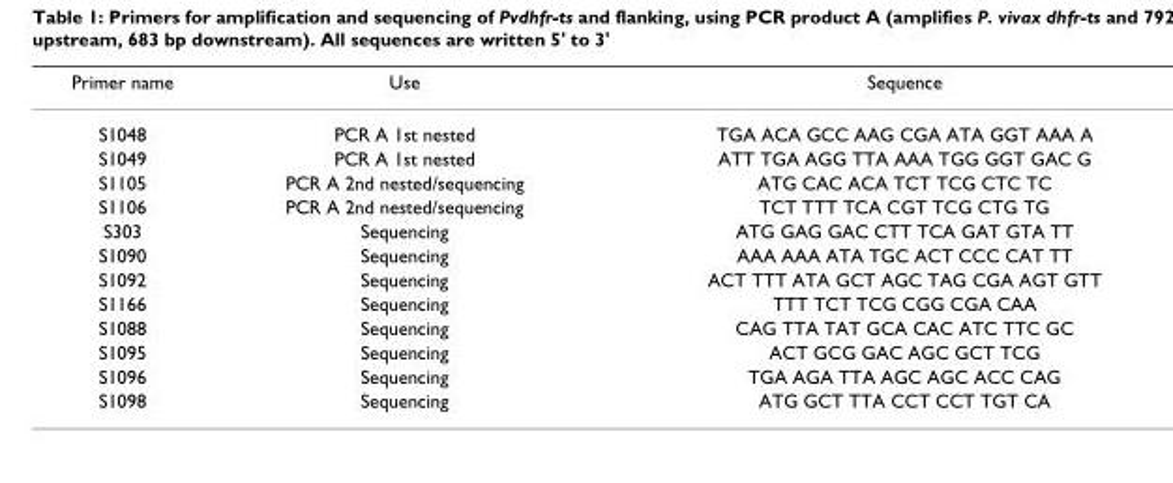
<table><thead><tr><td>Primer name</td><td>Use</td><td>Sequence</td></tr></thead><tbody><tr><td>S1048</td><td>PCR A 1st nested</td><td>TGA ACA GCC AAG CGA ATA GGT AAA A</td></tr><tr><td>S1049</td><td>PCR A 1st nested</td><td>ATT TGA AGG TTA AAA TGG GGT GAC G</td></tr><tr><td>S1105</td><td>PCR A 2nd nested/sequencing</td><td>ATG CAC ACA TCT TCG CTC TC</td></tr><tr><td>S1106</td><td>PCR A 2nd nested/sequencing</td><td>TCT TTT TCA CGT TCG CTG TG</td></tr><tr><td>S303</td><td>Sequencing</td><td>ATG GAG GAC CTT TCA GAT GTA TT</td></tr><tr><td>S1090</td><td>Sequencing</td><td>AAA AAA ATA TGC ACT CCC CAT TT</td></tr><tr><td>S1092</td><td>Sequencing</td><td>ACT TTT ATA GCT AGC TAG CGA AGT GTT</td></tr><tr><td>S1166</td><td>Sequencing</td><td>TTT TCT TCG CGG CGA CAA</td></tr><tr><td>S1088</td><td>Sequencing</td><td>CAG TTA TAT GCA CAC ATC TTC GC</td></tr><tr><td>S1095</td><td>Sequencing</td><td>ACT GCG GAC AGC GCT TCG</td></tr><tr><td>S1096</td><td>Sequencing</td><td>TGA AGA TTA AGC AGC ACC CAG</td></tr><tr><td>S1098</td><td>Sequencing</td><td>ATG GCT TTA CCT CCT TGT CA</td></tr></tbody></table>